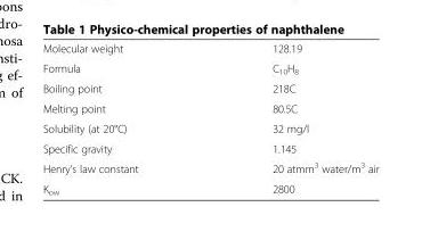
<table><tbody><tr><td>Molecular weight</td><td>128.19</td></tr><tr><td>Formula</td><td>C<sub>10</sub>H<sub>8</sub></td></tr><tr><td>Boiling point</td><td>218C</td></tr><tr><td>Melting point</td><td>80.5C</td></tr><tr><td>Solubility (at 20°C)</td><td>32 mg/l</td></tr><tr><td>Specific gravity</td><td>1.145</td></tr><tr><td>Henry’s law constant</td><td>20 atmm<sup>3</sup> water/m<sup>3</sup> air</td></tr><tr><td>K<sub>ow</sub></td><td>2800</td></tr></tbody></table>